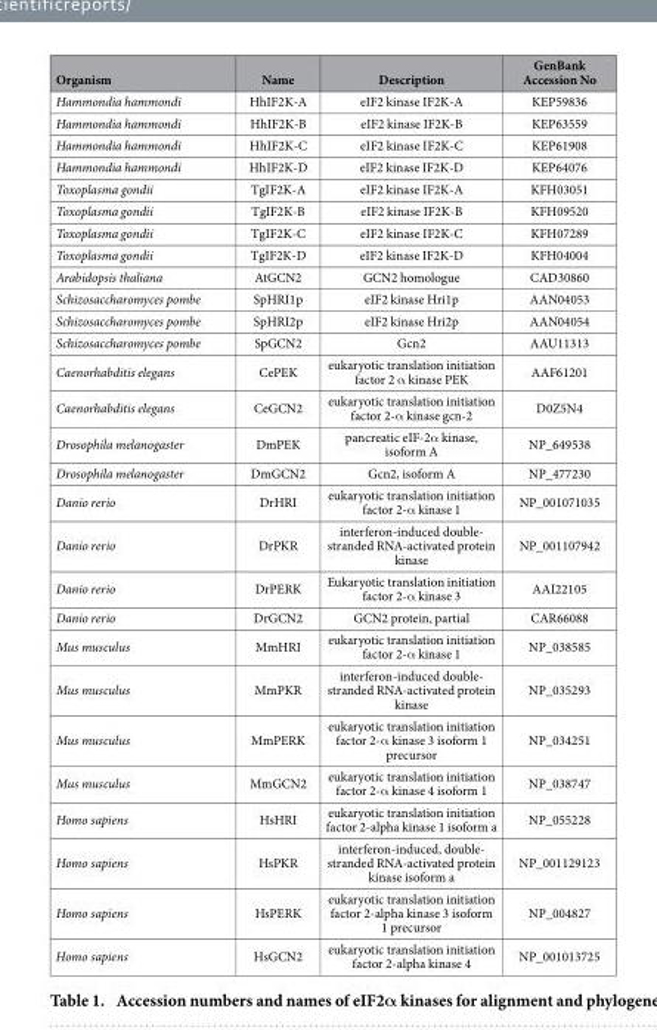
<table><thead><tr><td>Organism</td><td>Name</td><td>Description</td><td>GenBank Accession No</td></tr></thead><tbody><tr><td>Hammondia hammondi</td><td>HhIF2K-A</td><td>eIF2 kinase IF2K-A</td><td>KEP59836</td></tr><tr><td>Hammondia hammondi</td><td>HhIF2K-B</td><td>eIF2 kinase IF2K-B</td><td>KEP63559</td></tr><tr><td>Hammondia hammondi</td><td>HhIF2K-C</td><td>eIF2 kinase IF2K-C</td><td>KEP61908</td></tr><tr><td>Hammondia hammondi</td><td>HhIF2K-D</td><td>eIF2 kinase IF2K-D</td><td>KEP64076</td></tr><tr><td>Toxoplasma gondii</td><td>TgIF2K-A</td><td>eIF2 kinase IF2K-A</td><td>KFH03051</td></tr><tr><td>Toxoplasma gondii</td><td>TgIF2K-B</td><td>eIF2 kinase IF2K-B</td><td>KFH09520</td></tr><tr><td>Toxoplasma gondii</td><td>TgIF2K-C</td><td>eIF2 kinase IF2K-C</td><td>KFH07289</td></tr><tr><td>Toxoplasma gondii</td><td>TgIF2K-D</td><td>eIF2 kinase IF2K-D</td><td>KFH04004</td></tr><tr><td>Arabidopsis thaliana</td><td>AtGCN2</td><td>GCN2 homologue</td><td>CAD30860</td></tr><tr><td>Schizosaccharomyces pombe</td><td>SpHRI1p</td><td>eIF2 kinase Hri1p</td><td>AAN04053</td></tr><tr><td>Schizosaccharomyces pombe</td><td>SpHRI2p</td><td>eIF2 kinase Hri2p</td><td>AAN04054</td></tr><tr><td>Schizosaccharomyces pombe</td><td>SpGCN2</td><td>Gcn2</td><td>AAU11313</td></tr><tr><td>Caenorhabditis elegans</td><td>CePEK</td><td>eukaryotic translation initiation factor 2 α kinase PEK</td><td>AAF61201</td></tr><tr><td>Caenorhabditis elegans</td><td>CeGCN2</td><td>eukaryotic translation initiation factor 2-α kinase gcn-2</td><td>D0Z5N4</td></tr><tr><td>Drosophila melanogaster</td><td>DmPEK</td><td>pancreatic eIF-2α kinase, isoform A</td><td>NP_649538</td></tr><tr><td>Drosophila melanogaster</td><td>DmGCN2</td><td>Gcn2, isoform A</td><td>NP_477230</td></tr><tr><td>Danio rerio</td><td>DrHRI</td><td>eukaryotic translation initiation factor 2-α kinase 1</td><td>NP_001071035</td></tr><tr><td>Danio rerio</td><td>DrPKR</td><td>interferon-induced double- stranded RNA-activated protein kinase</td><td>NP_001107942</td></tr><tr><td>Danio rerio</td><td>DrPERK</td><td>Eukaryotic translation initiation factor 2-α kinase 3</td><td>AAI22105</td></tr><tr><td>Danio rerio</td><td>DrGCN2</td><td>GCN2 protein, partial</td><td>CAR66088</td></tr><tr><td>Mus musculus</td><td>MmHRI</td><td>eukaryotic translation initiation factor 2-α kinase 1</td><td>NP_038585</td></tr><tr><td>Mus musculus</td><td>MmPKR</td><td>interferon-induced double- stranded RNA-activated protein kinase</td><td>NP_035293</td></tr><tr><td>Mus musculus</td><td>MmPERK</td><td>eukaryotic translation initiation factor 2-α kinase 3 isoform 1 precursor</td><td>NP_034251</td></tr><tr><td>Mus musculus</td><td>MmGCN2</td><td>eukaryotic translation initiation factor 2-α kinase 4 isoform 1</td><td>NP_038747</td></tr><tr><td>Homo sapiens</td><td>HsHRI</td><td>eukaryotic translation initiation factor 2-alpha kinase 1 isoform a</td><td>NP_055228</td></tr><tr><td>Homo sapiens</td><td>HsPKR</td><td>interferon-induced, double- stranded RNA-activated protein kinase isoform a</td><td>NP_001129123</td></tr><tr><td>Homo sapiens</td><td>HsPERK</td><td>eukaryotic translation initiation factor 2-alpha kinase 3 isoform 1 precursor</td><td>NP_004827</td></tr><tr><td>Homo sapiens</td><td>HsGCN2</td><td>eukaryotic translation initiation factor 2-alpha kinase 4</td><td>NP_001013725</td></tr></tbody></table>